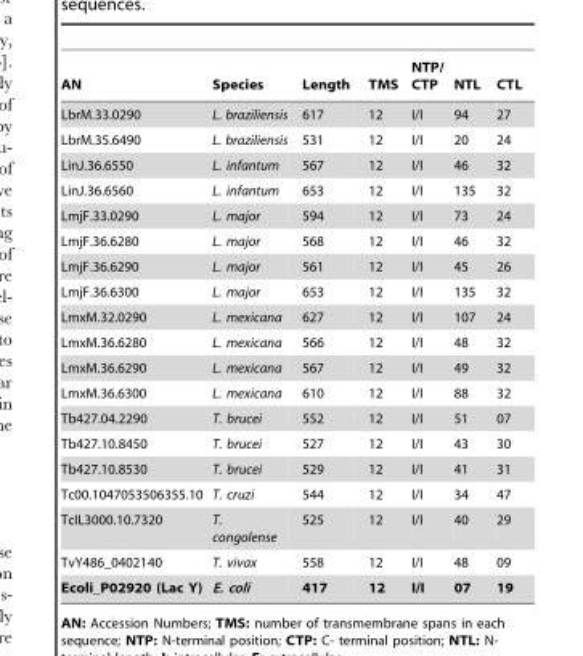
<table><thead><tr><td>AN</td><td>Species</td><td>Length</td><td>TMS</td><td>NTP/ CTP</td><td>NTL</td><td>CTL</td></tr></thead><tbody><tr><td>LbrM.33.0290</td><td>L. braziliensis</td><td>617</td><td>12</td><td>I/I</td><td>94</td><td>27</td></tr><tr><td>LbrM.35.6490</td><td>L. braziliensis</td><td>531</td><td>12</td><td>I/I</td><td>20</td><td>24</td></tr><tr><td>LinJ.36.6550</td><td>L. infantum</td><td>567</td><td>12</td><td>I/I</td><td>46</td><td>32</td></tr><tr><td>LinJ.36.6560</td><td>L. infantum</td><td>653</td><td>12</td><td>I/I</td><td>135</td><td>32</td></tr><tr><td>LmjF.33.0290</td><td>L. major</td><td>594</td><td>12</td><td>I/I</td><td>73</td><td>24</td></tr><tr><td>LmjF.36.6280</td><td>L. major</td><td>568</td><td>12</td><td>I/I</td><td>46</td><td>32</td></tr><tr><td>LmjF.36.6290</td><td>L. major</td><td>561</td><td>12</td><td>I/I</td><td>45</td><td>26</td></tr><tr><td>LmjF.36.6300</td><td>L. major</td><td>653</td><td>12</td><td>I/I</td><td>135</td><td>32</td></tr><tr><td>LmxM.32.0290</td><td>L. mexicana</td><td>627</td><td>12</td><td>I/I</td><td>107</td><td>24</td></tr><tr><td>LmxM.36.6280</td><td>L. mexicana</td><td>566</td><td>12</td><td>I/I</td><td>48</td><td>32</td></tr><tr><td>LmxM.36.6290</td><td>L. mexicana</td><td>567</td><td>12</td><td>I/I</td><td>49</td><td>32</td></tr><tr><td>LmxM.36.6300</td><td>L. mexicana</td><td>610</td><td>12</td><td>I/I</td><td>88</td><td>32</td></tr><tr><td>Tb427.04.2290</td><td>T. brucei</td><td>552</td><td>12</td><td>I/I</td><td>51</td><td>07</td></tr><tr><td>Tb427.10.8450</td><td>T. brucei</td><td>527</td><td>12</td><td>I/I</td><td>43</td><td>30</td></tr><tr><td>Tb427.10.8530</td><td>T. brucei</td><td>529</td><td>12</td><td>I/I</td><td>41</td><td>31</td></tr><tr><td>Tc00.1047053506355.10</td><td>T. cruzi</td><td>544</td><td>12</td><td>I/I</td><td>34</td><td>47</td></tr><tr><td>TcIL3000.10.7320</td><td>T. congolense</td><td>525</td><td>12</td><td>I/I</td><td>40</td><td>29</td></tr><tr><td>TvY486_0402140</td><td>T. vivax</td><td>558</td><td>12</td><td>I/I</td><td>48</td><td>09</td></tr><tr><td>Ecoli_P02920 (Lac Y)</td><td>E. coli</td><td>417</td><td>12</td><td>I/I</td><td>07</td><td>19</td></tr></tbody></table>